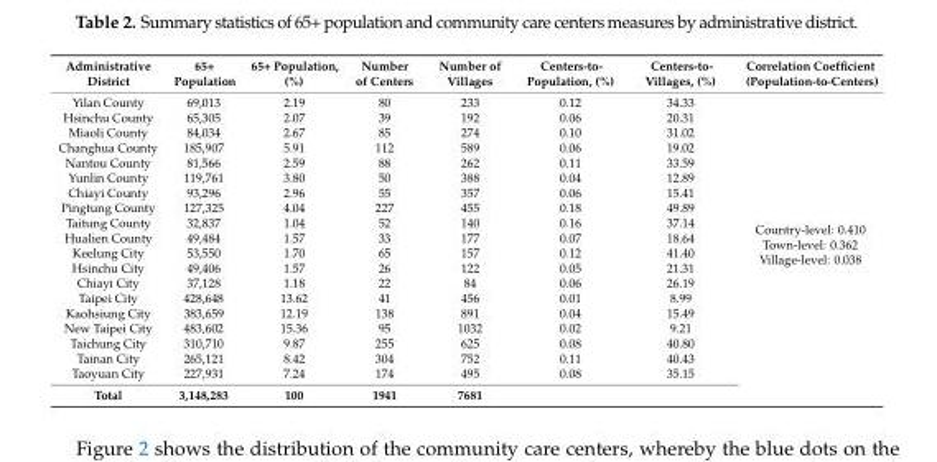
<table><thead><tr><td>Administrative District</td><td>65+ Population</td><td>65+ Population, (%)</td><td>Number of Centers</td><td>Number of Villages</td><td>Centers-to- Population, (%)</td><td>Centers-to- Villages, (%)</td><td>Correlation Coefficient (Population-to-Centers)</td></tr></thead><tbody><tr><td>Yilan County</td><td>69,013</td><td>2.19</td><td>80</td><td>233</td><td>0.12</td><td>34.33</td><td rowspan="20">Country-level: 0.410 Town-level: 0.362 Village-level: 0.038</td></tr><tr><td>Hsinchu County</td><td>65,305</td><td>2.07</td><td>39</td><td>192</td><td>0.06</td><td>20.31</td></tr><tr><td>Miaoli County</td><td>84,034</td><td>2.67</td><td>85</td><td>274</td><td>0.10</td><td>31.02</td></tr><tr><td>Changhua County</td><td>185,907</td><td>5.91</td><td>112</td><td>589</td><td>0.06</td><td>19.02</td></tr><tr><td>Nantou County</td><td>81,566</td><td>2.59</td><td>88</td><td>262</td><td>0.11</td><td>33.59</td></tr><tr><td>Yunlin County</td><td>119,761</td><td>3.80</td><td>50</td><td>388</td><td>0.04</td><td>12.89</td></tr><tr><td>Chiayi County</td><td>93,296</td><td>2.96</td><td>55</td><td>357</td><td>0.06</td><td>15.41</td></tr><tr><td>Pingtung County</td><td>127,325</td><td>4.04</td><td>227</td><td>455</td><td>0.18</td><td>49.89</td></tr><tr><td>Taitung County</td><td>32,837</td><td>1.04</td><td>52</td><td>140</td><td>0.16</td><td>37.14</td></tr><tr><td>Hualien County</td><td>49,484</td><td>1.57</td><td>33</td><td>177</td><td>0.07</td><td>18.64</td></tr><tr><td>Keelung City</td><td>53,550</td><td>1.70</td><td>65</td><td>157</td><td>0.12</td><td>41.40</td></tr><tr><td>Hsinchu City</td><td>49,406</td><td>1.57</td><td>26</td><td>122</td><td>0.05</td><td>21.31</td></tr><tr><td>Chiayi City</td><td>37,128</td><td>1.18</td><td>22</td><td>84</td><td>0.06</td><td>26.19</td></tr><tr><td>Taipei City</td><td>428,648</td><td>13.62</td><td>41</td><td>456</td><td>0.01</td><td>8.99</td></tr><tr><td>Kaohsiung City</td><td>383,659</td><td>12.19</td><td>138</td><td>891</td><td>0.04</td><td>15.49</td></tr><tr><td>New Taipei City</td><td>483,602</td><td>15.36</td><td>95</td><td>1032</td><td>0.02</td><td>9.21</td></tr><tr><td>Taichung City</td><td>310,710</td><td>9.87</td><td>255</td><td>625</td><td>0.08</td><td>40.80</td></tr><tr><td>Tainan City</td><td>265,121</td><td>8.42</td><td>304</td><td>752</td><td>0.11</td><td>40.43</td></tr><tr><td>Taoyuan City</td><td>227,931</td><td>7.24</td><td>174</td><td>495</td><td>0.08</td><td>35.15</td></tr><tr><td>Total</td><td>3,148,283</td><td>100</td><td>1941</td><td>7681</td><td></td><td></td></tr></tbody></table>